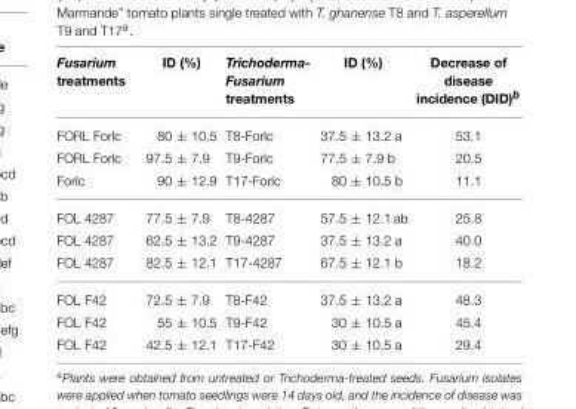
<table><thead><tr><td>Fusarium treatments</td><td>ID (%)</td><td>Trichoderma- Fusarium treatments</td><td>ID (%)</td><td>Decrease of disease incidence (DID)<sup>b</sup></td></tr></thead><tbody><tr><td>FORL Forlc</td><td>80 ± 10.5</td><td>T8-Forlc</td><td>37.5 ± 13.2 a</td><td>53.1</td></tr><tr><td>FORL Forlc</td><td>97.5 ± 7.9</td><td>T9-Forlc</td><td>77.5 ± 7.9 b</td><td>20.5</td></tr><tr><td>Forlc</td><td>90 ± 12.9</td><td>T17-Forlc</td><td>80 ± 10.5 b</td><td>11.1</td></tr><tr><td>FOL 4287</td><td>77.5 ± 7.9</td><td>T8-4287</td><td>57.5 ± 12.1 ab</td><td>25.8</td></tr><tr><td>FOL 4287</td><td>62.5 ± 13.2</td><td>T9-4287</td><td>37.5 ± 13.2 a</td><td>40.0</td></tr><tr><td>FOL 4287</td><td>82.5 ± 12.1</td><td>T17-4287</td><td>67.5 ± 12.1 b</td><td>18.2</td></tr><tr><td>FOL F42</td><td>72.5 ± 7.9</td><td>T8-F42</td><td>37.5 ± 13.2 a</td><td>48.3</td></tr><tr><td>FOL F42</td><td>55 ± 10.5</td><td>T9-F42</td><td>30 ± 10.5 a</td><td>45.4</td></tr><tr><td>FOL F42</td><td>42.5 ± 12.1</td><td>T17-F42</td><td>30 ± 10.5 a</td><td>29.4</td></tr></tbody></table>